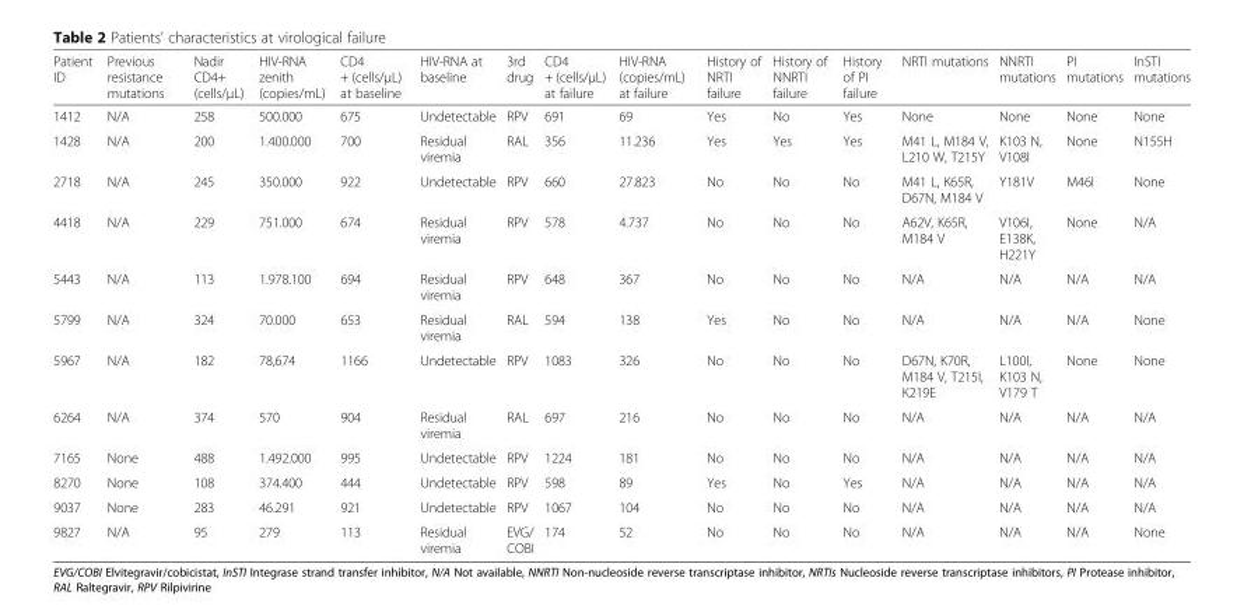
<table><thead><tr><td>Patient ID</td><td>Previous resistance mutations</td><td>Nadir CD4+ (cells/μL)</td><td>HIV-RNA zenith (copies/mL)</td><td>CD4 + (cells/μL) at baseline</td><td>HIV-RNA at baseline</td><td>3rd drug</td><td>CD4 + (cells/μL) at failure</td><td>HIV-RNA (copies/mL) at failure</td><td>History of NRTI failure</td><td>History of NNRTI failure</td><td>History of PI failure</td><td>NRTI mutations</td><td>NNRTI mutations</td><td>PI mutations</td><td>InSTI mutations</td></tr></thead><tbody><tr><td>1412</td><td>N/A</td><td>258</td><td>500.000</td><td>675</td><td>Undetectable</td><td>RPV</td><td>691</td><td>69</td><td>Yes</td><td>No</td><td>Yes</td><td>None</td><td>None</td><td>None</td><td>None</td></tr><tr><td>1428</td><td>N/A</td><td>200</td><td>1.400.000</td><td>700</td><td>Residual viremia</td><td>RAL</td><td>356</td><td>11.236</td><td>Yes</td><td>Yes</td><td>Yes</td><td>M41 L, M184 V, L210 W, T215Y</td><td>K103 N, V108I</td><td>None</td><td>N155H</td></tr><tr><td>2718</td><td>N/A</td><td>245</td><td>350.000</td><td>922</td><td>Undetectable</td><td>RPV</td><td>660</td><td>27.823</td><td>No</td><td>No</td><td>No</td><td>M41 L, K65R, D67N, M184 V</td><td>Y181V</td><td>M46I</td><td>None</td></tr><tr><td>4418</td><td>N/A</td><td>229</td><td>751.000</td><td>674</td><td>Residual viremia</td><td>RPV</td><td>578</td><td>4.737</td><td>No</td><td>No</td><td>No</td><td>A62V, K65R, M184 V</td><td>V106I, E138K, H221Y</td><td>None</td><td>N/A</td></tr><tr><td>5443</td><td>N/A</td><td>113</td><td>1.978.100</td><td>694</td><td>Residual viremia</td><td>RPV</td><td>648</td><td>367</td><td>No</td><td>No</td><td>No</td><td>N/A</td><td>N/A</td><td>N/A</td><td>N/A</td></tr><tr><td>5799</td><td>N/A</td><td>324</td><td>70.000</td><td>653</td><td>Residual viremia</td><td>RAL</td><td>594</td><td>138</td><td>Yes</td><td>No</td><td>No</td><td>N/A</td><td>N/A</td><td>N/A</td><td>None</td></tr><tr><td>5967</td><td>N/A</td><td>182</td><td>78,674</td><td>1166</td><td>Undetectable</td><td>RPV</td><td>1083</td><td>326</td><td>No</td><td>No</td><td>No</td><td>D67N, K70R, M184 V, T215I, K219E</td><td>L100I, K103 N, V179 T</td><td>None</td><td>None</td></tr><tr><td>6264</td><td>N/A</td><td>374</td><td>570</td><td>904</td><td>Residual viremia</td><td>RAL</td><td>697</td><td>216</td><td>No</td><td>No</td><td>No</td><td>N/A</td><td>N/A</td><td>N/A</td><td>N/A</td></tr><tr><td>7165</td><td>None</td><td>488</td><td>1.492.000</td><td>995</td><td>Undetectable</td><td>RPV</td><td>1224</td><td>181</td><td>No</td><td>No</td><td>No</td><td>N/A</td><td>N/A</td><td>N/A</td><td>N/A</td></tr><tr><td>8270</td><td>None</td><td>108</td><td>374.400</td><td>444</td><td>Undetectable</td><td>RPV</td><td>598</td><td>89</td><td>Yes</td><td>No</td><td>Yes</td><td>N/A</td><td>N/A</td><td>N/A</td><td>N/A</td></tr><tr><td>9037</td><td>None</td><td>283</td><td>46.291</td><td>921</td><td>Undetectable</td><td>RPV</td><td>1067</td><td>104</td><td>No</td><td>No</td><td>No</td><td>N/A</td><td>N/A</td><td>N/A</td><td>N/A</td></tr><tr><td>9827</td><td>N/A</td><td>95</td><td>279</td><td>113</td><td>Residual viremia</td><td>EVG/ COBI</td><td>174</td><td>52</td><td>No</td><td>No</td><td>No</td><td>N/A</td><td>N/A</td><td>N/A</td><td>None</td></tr></tbody></table>